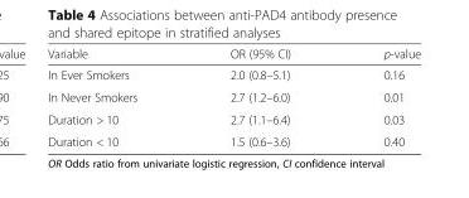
<table><thead><tr><td>Variable</td><td>OR (95% CI)</td><td>p-value</td></tr></thead><tbody><tr><td>In Ever Smokers</td><td>2.0 (0.8–5.1)</td><td>0.16</td></tr><tr><td>In Never Smokers</td><td>2.7 (1.2–6.0)</td><td>0.01</td></tr><tr><td>Duration &gt; 10</td><td>2.7 (1.1–6.4)</td><td>0.03</td></tr><tr><td>Duration &lt; 10</td><td>1.5 (0.6–3.6)</td><td>0.40</td></tr></tbody></table>